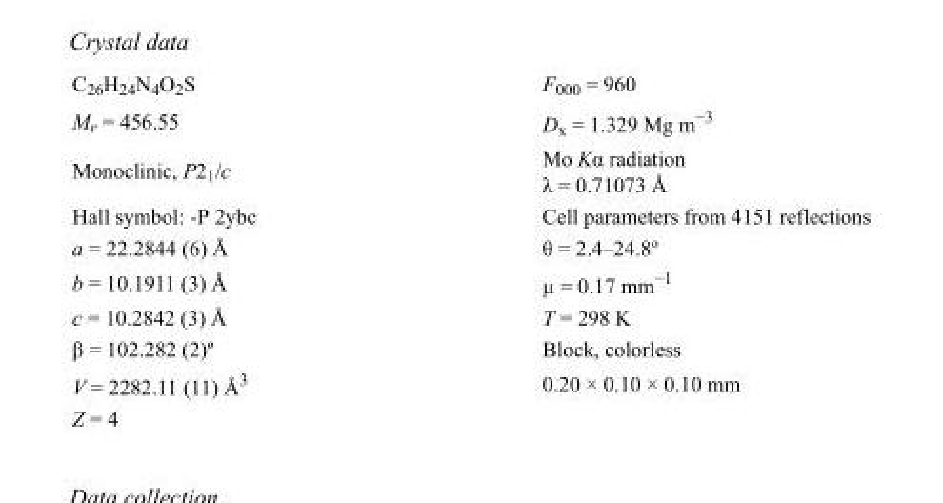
<table><tbody><tr><td>C<sub>26</sub>H<sub>24</sub>N<sub>4</sub>O<sub>2</sub>S</td><td>F000 = 960</td></tr><tr><td>M<sub>r</sub> = 456.55</td><td>D<sub>x</sub> = 1.329 Mg m<sup>−3</sup></td></tr><tr><td>Monoclinic, P2<sub>1</sub>/c</td><td>Mo Kα radiation λ = 0.71073 Å</td></tr><tr><td>Hall symbol: -P 2ybc</td><td>Cell parameters from 4151 reflections</td></tr><tr><td>a = 22.2844 (6) Å</td><td>θ = 2.4–24.8º</td></tr><tr><td>b = 10.1911 (3) Å</td><td>µ = 0.17 mm<sup>−1</sup></td></tr><tr><td>c = 10.2842 (3) Å</td><td>T = 298 K</td></tr><tr><td>β = 102.282 (2)º</td><td>Block, colorless</td></tr><tr><td>V = 2282.11 (11) Å<sup>3</sup></td><td>0.20 × 0.10 × 0.10 mm</td></tr><tr><td>Z = 4</td><td></td></tr></tbody></table>